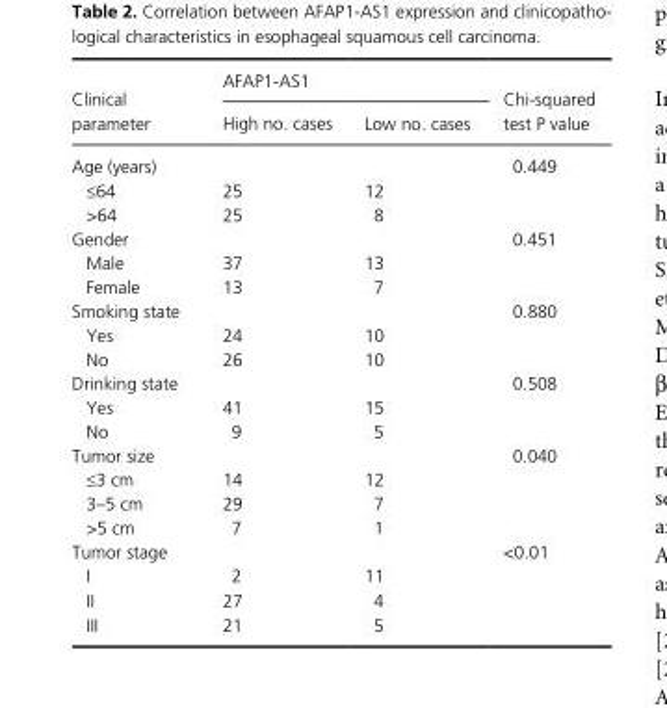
<table><thead><tr><td rowspan="2">Clinical parameter</td><td colspan="2">AFAP1- AS1</td><td rowspan="2">Chi- squared test P value</td></tr><tr><td>High no. cases</td><td>Low no. cases</td></tr></thead><tbody><tr><td>Age (years)</td><td></td><td></td><td>0.449</td></tr><tr><td>≤64</td><td>25</td><td>12</td><td></td></tr><tr><td>&gt;64</td><td>25</td><td>8</td><td></td></tr><tr><td>Gender</td><td></td><td></td><td>0.451</td></tr><tr><td>Male</td><td>37</td><td>13</td><td></td></tr><tr><td>Female</td><td>13</td><td>7</td><td></td></tr><tr><td>Smoking state</td><td></td><td></td><td>0.880</td></tr><tr><td>Yes</td><td>24</td><td>10</td><td></td></tr><tr><td>No</td><td>26</td><td>10</td><td></td></tr><tr><td>Drinking state</td><td></td><td></td><td>0.508</td></tr><tr><td>Yes</td><td>41</td><td>15</td><td></td></tr><tr><td>No</td><td>9</td><td>5</td><td></td></tr><tr><td>Tumor size</td><td></td><td></td><td>0.040</td></tr><tr><td>≤3 cm</td><td>14</td><td>12</td><td></td></tr><tr><td>3–5 cm</td><td>29</td><td>7</td><td></td></tr><tr><td>&gt;5 cm</td><td>7</td><td>1</td><td></td></tr><tr><td>Tumor stage</td><td></td><td></td><td>&lt;0.01</td></tr><tr><td>I</td><td>2</td><td>11</td><td></td></tr><tr><td>II</td><td>27</td><td>4</td><td></td></tr><tr><td>III</td><td>21</td><td>5</td><td></td></tr></tbody></table>